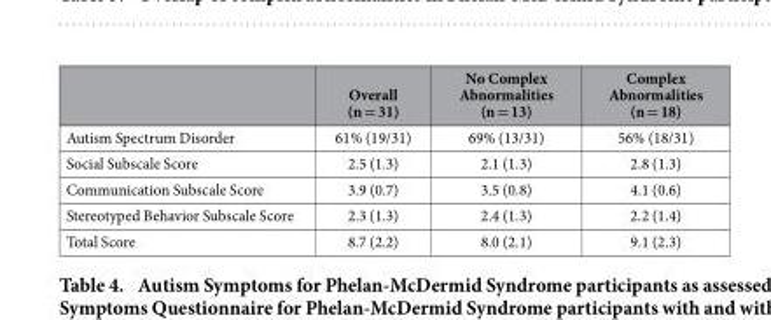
<table><thead><tr><td></td><td>Overall (n = 31)</td><td>No Complex Abnormalities (n = 13)</td><td>Complex Abnormalities (n = 18)</td></tr></thead><tbody><tr><td>Autism Spectrum Disorder</td><td>61% (19/31)</td><td>69% (13/31)</td><td>56% (18/31)</td></tr><tr><td>Social Subscale Score</td><td>2.5 (1.3)</td><td>2.1 (1.3)</td><td>2.8 (1.3)</td></tr><tr><td>Communication Subscale Score</td><td>3.9 (0.7)</td><td>3.5 (0.8)</td><td>4.1 (0.6)</td></tr><tr><td>Stereotyped Behavior Subscale Score</td><td>2.3 (1.3)</td><td>2.4 (1.3)</td><td>2.2 (1.4)</td></tr><tr><td>Total Score</td><td>8.7 (2.2)</td><td>8.0 (2.1)</td><td>9.1 (2.3)</td></tr></tbody></table>